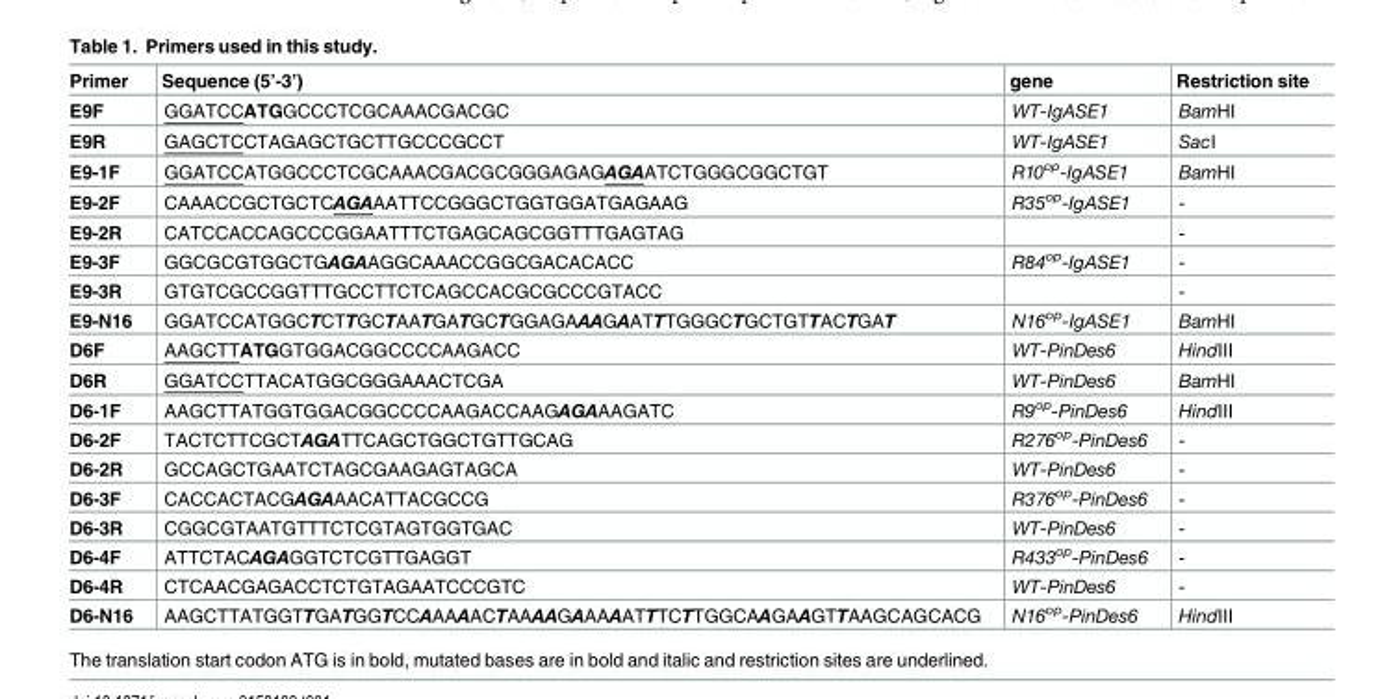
<table><thead><tr><td>Primer</td><td>Sequence (5’-3’)</td><td>gene</td><td>Restriction site</td></tr></thead><tbody><tr><td>E9F</td><td>GGATCCATGGCCCTCGCAAACGACGC</td><td>WT-IgASE1</td><td>BamHI</td></tr><tr><td>E9R</td><td>GAGCTCCTAGAGCTGCTTGCCCGCCT</td><td>WT-IgASE1</td><td>SacI</td></tr><tr><td>E9-1F</td><td>GGATCCATGGCCCTCGCAAACGACGCGGGAGAGAGAATCTGGGCGGCTGT</td><td>R10<sup>op</sup>-IgASE1</td><td>BamHI</td></tr><tr><td>E9-2F</td><td>CAAACCGCTGCTCAGAAATTCCGGGCTGGTGGATGAGAAG</td><td>R35<sup>op</sup>-IgASE1</td><td>-</td></tr><tr><td>E9-2R</td><td>CATCCACCAGCCCGGAATTTCTGAGCAGCGGTTTGAGTAG</td><td></td><td>-</td></tr><tr><td>E9-3F</td><td>GGCGCGTGGCTGAGAAGGCAAACCGGCGACACACC</td><td>R84<sup>op</sup>-IgASE1</td><td>-</td></tr><tr><td>E9-3R</td><td>GTGTCGCCGGTTTGCCTTCTCAGCCACGCGCCCGTACC</td><td></td><td>-</td></tr><tr><td>E9-N16</td><td>GGATCCATGGCTCTTGCTAATGATGCTGGAGAAAGAATTTGGGCTGCTGTTACTGAT</td><td>N16<sup>op</sup>-IgASE1</td><td>BamHI</td></tr><tr><td>D6F</td><td>AAGCTTATGGTGGACGGCCCCAAGACC</td><td>WT-PinDes6</td><td>HindⅢ</td></tr><tr><td>D6R</td><td>GGATCCTTACATGGCGGGAAACTCGA</td><td>WT-PinDes6</td><td>BamHI</td></tr><tr><td>D6-1F</td><td>AAGCTTATGGTGGACGGCCCCAAGACCAAGAGAAAGATC</td><td>R9<sup>op</sup>-PinDes6</td><td>HindⅢ</td></tr><tr><td>D6-2F</td><td>TACTCTTCGCTAGATTCAGCTGGCTGTTGCAG</td><td>R276<sup>op</sup>-PinDes6</td><td>-</td></tr><tr><td>D6-2R</td><td>GCCAGCTGAATCTAGCGAAGAGTAGCA</td><td>WT-PinDes6</td><td>-</td></tr><tr><td>D6-3F</td><td>CACCACTACGAGAAACATTACGCCG</td><td>R376<sup>op</sup>-PinDes6</td><td>-</td></tr><tr><td>D6-3R</td><td>CGGCGTAATGTTTCTCGTAGTGGTGAC</td><td>WT-PinDes6</td><td>-</td></tr><tr><td>D6-4F</td><td>ATTCTACAGAGGTCTCGTTGAGGT</td><td>R433<sup>op</sup>-PinDes6</td><td>-</td></tr><tr><td>D6-4R</td><td>CTCAACGAGACCTCTGTAGAATCCCGTC</td><td>WT-PinDes6</td><td>-</td></tr><tr><td>D6-N16</td><td>AAGCTTATGGTTGATGGTCCAAAAACTAAAAGAAAAATTTCTTGGCAAGAAGTTAAGCAGCACG</td><td>N16<sup>op</sup>-PinDes6</td><td>HindⅢ</td></tr></tbody></table>